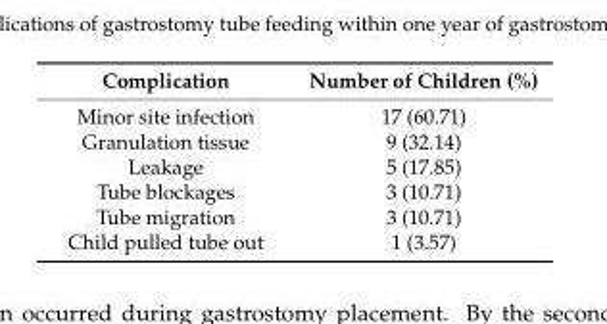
<table><thead><tr><td>Complication</td><td>Number of Children (%)</td></tr></thead><tbody><tr><td>Minor site infection</td><td>17 (60.71)</td></tr><tr><td>Granulation tissue</td><td>9 (32.14)</td></tr><tr><td>Leakage</td><td>5 (17.85)</td></tr><tr><td>Tube blockages</td><td>3 (10.71)</td></tr><tr><td>Tube migration</td><td>3 (10.71)</td></tr><tr><td>Child pulled tube out</td><td>1 (3.57)</td></tr></tbody></table>